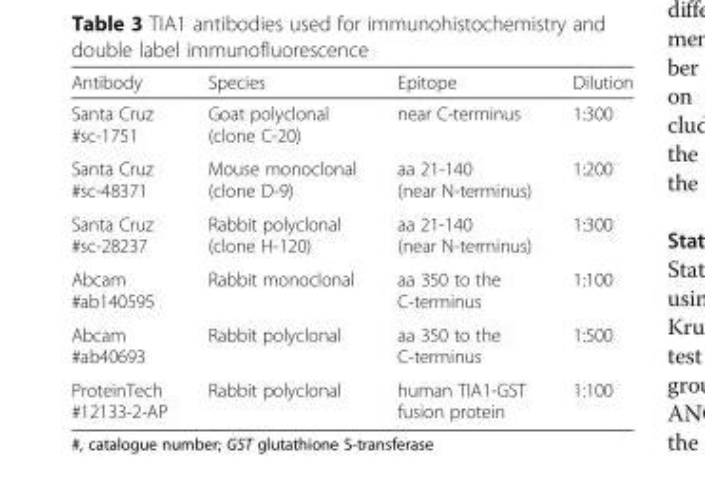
<table><thead><tr><td>Antibody</td><td>Species</td><td>Epitope</td><td>Dilution</td></tr></thead><tbody><tr><td>Santa Cruz #sc-1751</td><td>Goat polyclonal (clone C-20)</td><td>near C-terminus</td><td>1:300</td></tr><tr><td>Santa Cruz #sc-48371</td><td>Mouse monoclonal (clone D-9)</td><td>aa 21-140 (near N-terminus)</td><td>1:200</td></tr><tr><td>Santa Cruz #sc-28237</td><td>Rabbit polyclonal (clone H-120)</td><td>aa 21-140 (near N-terminus)</td><td>1:300</td></tr><tr><td>Abcam #ab140595</td><td>Rabbit monoclonal</td><td>aa 350 to the C-terminus</td><td>1:100</td></tr><tr><td>Abcam #ab40693</td><td>Rabbit polyclonal</td><td>aa 350 to the C-terminus</td><td>1:500</td></tr><tr><td>ProteinTech #12133-2-AP</td><td>Rabbit polyclonal</td><td>human TIA1-GST fusion protein</td><td>1:100</td></tr></tbody></table>